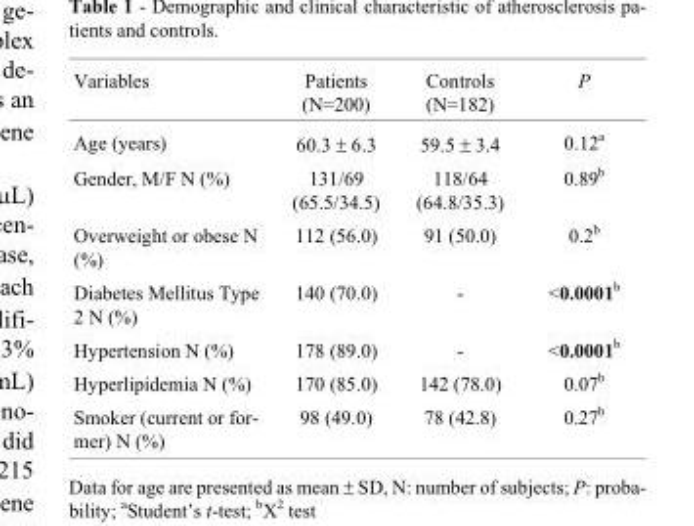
<table><thead><tr><td>Variables</td><td>Patients (N=200)</td><td>Controls (N=182)</td><td>P</td></tr></thead><tbody><tr><td>Age (years)</td><td>60.3 ± 6.3</td><td>59.5 ± 3.4</td><td>0.12<sup>a</sup></td></tr><tr><td>Gender, M/F N (%)</td><td>131/69 (65.5/34.5)</td><td>118/64 (64.8/35.3)</td><td>0.89<sup>b</sup></td></tr><tr><td>Overweight or obese N (%)</td><td>112 (56.0)</td><td>91 (50.0)</td><td>0.2<sup>b</sup></td></tr><tr><td>Diabetes Mellitus Type 2 N (%)</td><td>140 (70.0)</td><td>-</td><td>&lt;0.0001<sup>b</sup></td></tr><tr><td>Hypertension N (%)</td><td>178 (89.0)</td><td>-</td><td>&lt;0.0001<sup>b</sup></td></tr><tr><td>Hyperlipidemia N (%)</td><td>170 (85.0)</td><td>142 (78.0)</td><td>0.07<sup>b</sup></td></tr><tr><td>Smoker (current or for- mer) N (%)</td><td>98 (49.0)</td><td>78 (42.8)</td><td>0.27<sup>b</sup></td></tr></tbody></table>